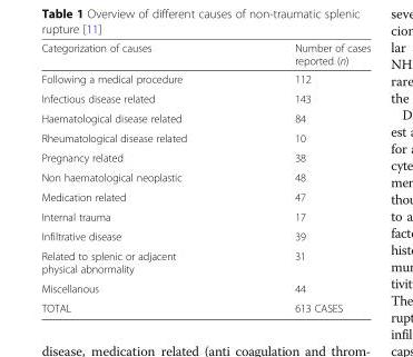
<table><thead><tr><td>Categorization of causes</td><td>Number of cases reported (n)</td></tr></thead><tbody><tr><td>Following a medical procedure</td><td>112</td></tr><tr><td>Infectious disease related</td><td>143</td></tr><tr><td>Haematological disease related</td><td>84</td></tr><tr><td>Rheumatological disease related</td><td>10</td></tr><tr><td>Pregnancy related</td><td>38</td></tr><tr><td>Non haematological neoplastic</td><td>48</td></tr><tr><td>Medication related</td><td>47</td></tr><tr><td>Internal trauma</td><td>17</td></tr><tr><td>Infiltrative disease</td><td>39</td></tr><tr><td>Related to splenic or adjacent physical abnormality</td><td>31</td></tr><tr><td>Miscellanous</td><td>44</td></tr><tr><td>TOTAL</td><td>613 CASES</td></tr></tbody></table>